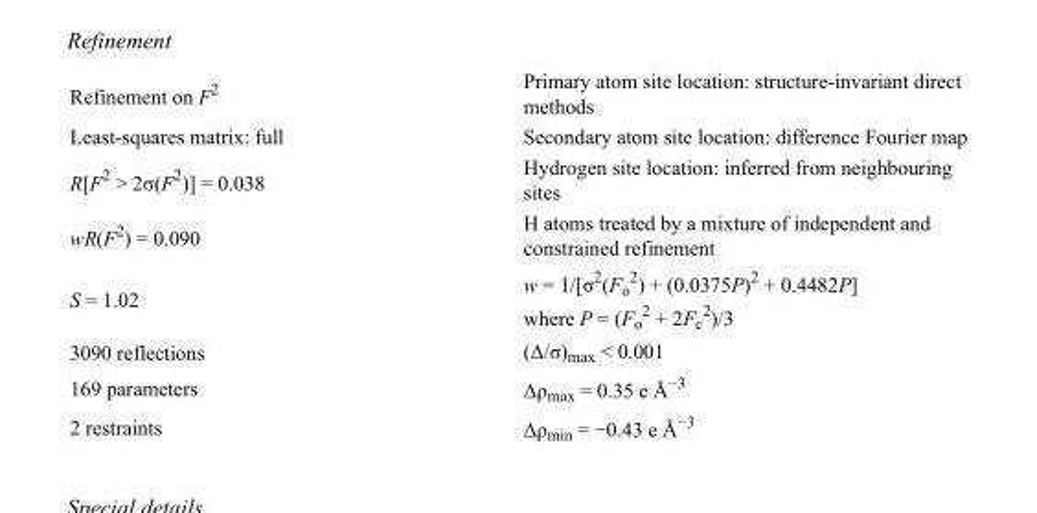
<table><tbody><tr><td>Refinement on F<sup>2</sup></td><td>Primary atom site location: structure-invariant direct methods</td></tr><tr><td>Least-squares matrix: full</td><td>Secondary atom site location: difference Fourier map</td></tr><tr><td>R[F<sup>2</sup> &gt; 2σ(F<sup>2</sup>)] = 0.038</td><td>Hydrogen site location: inferred from neighbouring sites</td></tr><tr><td>wR(F<sup>2</sup>) = 0.090</td><td>H atoms treated by a mixture of independent and constrained refinement</td></tr><tr><td>S = 1.02</td><td>w = 1/[σ<sup>2</sup>(F<sub>o</sub> <sup>2</sup>) + (0.0375P)<sup>2</sup> + 0.4482P] where P = (F<sub>o</sub> <sup>2</sup> + 2F<sub>c</sub> <sup>2</sup>)/3</td></tr><tr><td>3090 reflections</td><td>(Δ/σ)<sub>max</sub> &lt; 0.001</td></tr><tr><td>169 parameters</td><td>Δρ<sub>max</sub> = 0.35 e Å<sup>−3</sup></td></tr><tr><td>2 restraints</td><td>Δρ<sub>min</sub> = −0.43 e Å<sup>−3</sup></td></tr></tbody></table>